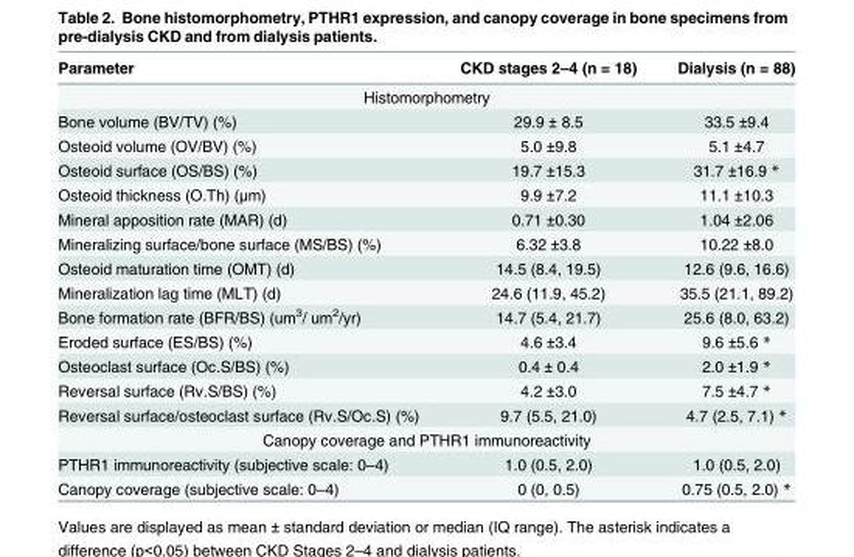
<table><thead><tr><td>Parameter</td><td>CKD stages 2–4 (n = 18)</td><td>Dialysis (n = 88)</td></tr></thead><tbody><tr><td colspan="3">Histomorphometry</td></tr><tr><td>Bone volume (BV/TV) (%)</td><td>29.9 ± 8.5</td><td>33.5 ±9.4</td></tr><tr><td>Osteoid volume (OV/BV) (%)</td><td>5.0 ±9.8</td><td>5.1 ±4.7</td></tr><tr><td>Osteoid surface (OS/BS) (%)</td><td>19.7 ±15.3</td><td>31.7 ±16.9 *</td></tr><tr><td>Osteoid thickness (O.Th) (μm)</td><td>9.9 ±7.2</td><td>11.1 ±10.3</td></tr><tr><td>Mineral apposition rate (MAR) (d)</td><td>0.71 ±0.30</td><td>1.04 ±2.06</td></tr><tr><td>Mineralizing surface/bone surface (MS/BS) (%)</td><td>6.32 ±3.8</td><td>10.22 ±8.0</td></tr><tr><td>Osteoid maturation time (OMT) (d)</td><td>14.5 (8.4, 19.5)</td><td>12.6 (9.6, 16.6)</td></tr><tr><td>Mineralization lag time (MLT) (d)</td><td>24.6 (11.9, 45.2)</td><td>35.5 (21.1, 89.2)</td></tr><tr><td>Bone formation rate (BFR/BS) (um<sup>3</sup>/ um<sup>2</sup>/yr)</td><td>14.7 (5.4, 21.7)</td><td>25.6 (8.0, 63.2)</td></tr><tr><td>Eroded surface (ES/BS) (%)</td><td>4.6 ±3.4</td><td>9.6 ±5.6 *</td></tr><tr><td>Osteoclast surface (Oc.S/BS) (%)</td><td>0.4 ± 0.4</td><td>2.0 ±1.9 *</td></tr><tr><td>Reversal surface (Rv.S/BS) (%)</td><td>4.2 ±3.0</td><td>7.5 ±4.7 *</td></tr><tr><td>Reversal surface/osteoclast surface (Rv.S/Oc.S) (%)</td><td>9.7 (5.5, 21.0)</td><td>4.7 (2.5, 7.1) *</td></tr><tr><td colspan="3">Canopy coverage and PTHR1 immunoreactivity</td></tr><tr><td>PTHR1 immunoreactivity (subjective scale: 0–4)</td><td>1.0 (0.5, 2.0)</td><td>1.0 (0.5, 2.0)</td></tr><tr><td>Canopy coverage (subjective scale: 0–4)</td><td>0 (0, 0.5)</td><td>0.75 (0.5, 2.0) *</td></tr></tbody></table>